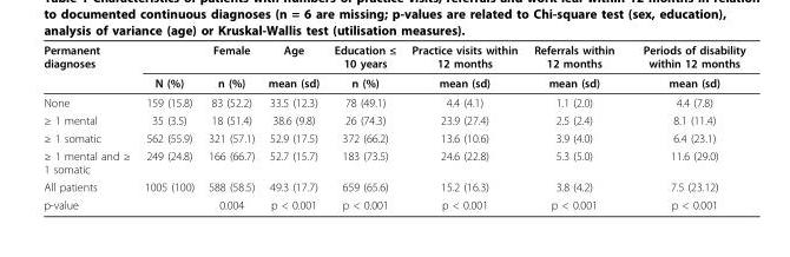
<table><thead><tr><td rowspan="2">Permanent diagnoses</td><td rowspan="2">N (%)</td><td rowspan="2">Female n (%)</td><td rowspan="2">Age mean (sd)</td><td rowspan="2">Education ≤ 10 years n (%)</td><td rowspan="2">Practice visits within 12 months mean (sd)</td><td rowspan="2">Referrals within 12 months mean (sd)</td><td rowspan="2">Periods of disability within 12 months mean (sd)</td></tr><tr></tr></thead><tbody><tr><td>None</td><td>159 (15.8)</td><td>83 (52.2)</td><td>33.5 (12.3)</td><td>78 (49.1)</td><td>4.4 (4.1)</td><td>1.1 (2.0)</td><td>4.4 (7.8)</td></tr><tr><td>≥ 1 mental</td><td>35 (3.5)</td><td>18 (51.4)</td><td>38.6 (9.8)</td><td>26 (74.3)</td><td>23.9 (27.4)</td><td>2.5 (2.4)</td><td>8.1 (11.4)</td></tr><tr><td>≥ 1 somatic</td><td>562 (55.9)</td><td>321 (57.1)</td><td>52.9 (17.5)</td><td>372 (66.2)</td><td>13.6 (10.6)</td><td>3.9 (4.0)</td><td>6.4 (23.1)</td></tr><tr><td>≥ 1 mental and ≥ 1 somatic</td><td>249 (24.8)</td><td>166 (66.7)</td><td>52.7 (15.7)</td><td>183 (73.5)</td><td>24.6 (22.8)</td><td>5.3 (5.0)</td><td>11.6 (29.0)</td></tr><tr><td>All patients</td><td>1005 (100)</td><td>588 (58.5)</td><td>49.3 (17.7)</td><td>659 (65.6)</td><td>15.2 (16.3)</td><td>3.8 (4.2)</td><td>7.5 (23.12)</td></tr><tr><td>p-value</td><td></td><td>0.004</td><td>p &lt; 0.001</td><td>p &lt; 0.001</td><td>p &lt; 0.001</td><td>p &lt; 0.001</td><td>p &lt; 0.001</td></tr></tbody></table>